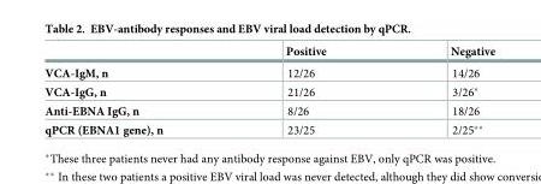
<table><thead><tr><td></td><td>Positive</td><td>Negative</td></tr></thead><tbody><tr><td>VCA-IgM, n</td><td>12/26</td><td>14/26</td></tr><tr><td>VCA-IgG, n</td><td>21/26</td><td>3/26*</td></tr><tr><td>Anti-EBNA IgG, n</td><td>8/26</td><td>18/26</td></tr><tr><td>qPCR (EBNA1 gene), n</td><td>23/25</td><td>2/25**</td></tr></tbody></table>